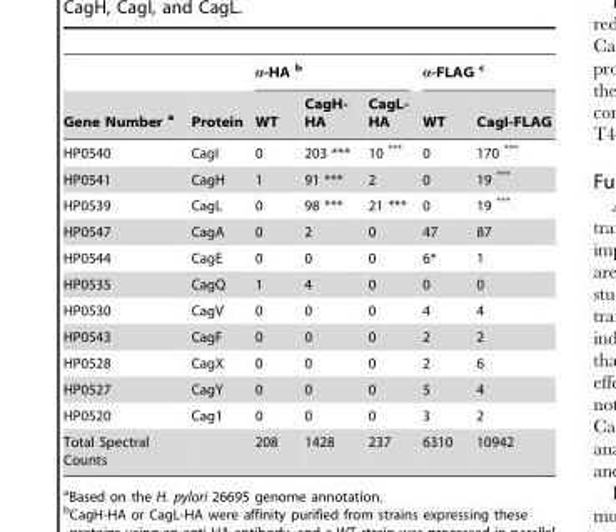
<table><thead><tr><td rowspan="2">Gene Number a</td><td rowspan="2">Protein</td><td colspan="3">α-HA b</td><td colspan="2">α-FLAG c</td></tr><tr><td>WT</td><td>CagH- HA</td><td>CagL- HA</td><td>WT</td><td>CagI-FLAG</td></tr></thead><tbody><tr><td>HP0540</td><td>CagI</td><td>0</td><td>203 ***</td><td>10 ***</td><td>0</td><td>170 ***</td></tr><tr><td>HP0541</td><td>CagH</td><td>1</td><td>91 ***</td><td>2</td><td>0</td><td>19 ***</td></tr><tr><td>HP0539</td><td>CagL</td><td>0</td><td>98 ***</td><td>21 ***</td><td>0</td><td>19 ***</td></tr><tr><td>HP0547</td><td>CagA</td><td>0</td><td>2</td><td>0</td><td>47</td><td>87</td></tr><tr><td>HP0544</td><td>CagE</td><td>0</td><td>0</td><td>0</td><td>6*</td><td>1</td></tr><tr><td>HP0535</td><td>CagQ</td><td>1</td><td>4</td><td>0</td><td>0</td><td>0</td></tr><tr><td>HP0530</td><td>CagV</td><td>0</td><td>0</td><td>0</td><td>4</td><td>4</td></tr><tr><td>HP0543</td><td>CagF</td><td>0</td><td>0</td><td>0</td><td>2</td><td>2</td></tr><tr><td>HP0528</td><td>CagX</td><td>0</td><td>0</td><td>0</td><td>2</td><td>6</td></tr><tr><td>HP0527</td><td>CagY</td><td>0</td><td>0</td><td>0</td><td>5</td><td>4</td></tr><tr><td>HP0520</td><td>Cag1</td><td>0</td><td>0</td><td>0</td><td>3</td><td>2</td></tr><tr><td>Total Spectral Counts</td><td></td><td>208</td><td>1428</td><td>237</td><td>6310</td><td>10942</td></tr></tbody></table>